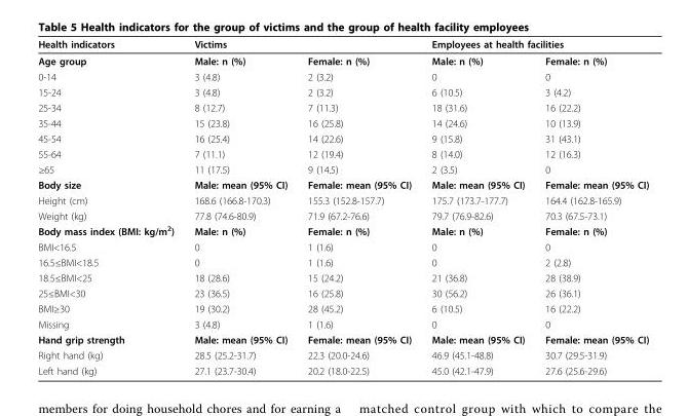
<table><thead><tr><td rowspan="2">Health indicators Age group</td><td colspan="2">Victims</td><td colspan="2">Employees at health facilities</td></tr><tr><td>Male: n (%)</td><td>Female: n (%)</td><td>Male: n (%)</td><td>Female: n (%)</td></tr></thead><tbody><tr><td>0-14</td><td>3 (4.8)</td><td>2 (3.2)</td><td>0</td><td>0</td></tr><tr><td>15-24</td><td>3 (4.8)</td><td>2 (3.2)</td><td>6 (10.5)</td><td>3 (4.2)</td></tr><tr><td>25-34</td><td>8 (12.7)</td><td>7 (11.3)</td><td>18 (31.6)</td><td>16 (22.2)</td></tr><tr><td>35-44</td><td>15 (23.8)</td><td>16 (25.8)</td><td>14 (24.6)</td><td>10 (13.9)</td></tr><tr><td>45-54</td><td>16 (25.4)</td><td>14 (22.6)</td><td>9 (15.8)</td><td>31 (43.1)</td></tr><tr><td>55-64</td><td>7 (11.1)</td><td>12 (19.4)</td><td>8 (14.0)</td><td>12 (16.3)</td></tr><tr><td>≥65</td><td>11 (17.5)</td><td>9 (14.5)</td><td>2 (3.5)</td><td>0</td></tr><tr><td>Body size</td><td>Male: mean (95% CI)</td><td>Female: mean (95% CI)</td><td>Male: mean (95% CI)</td><td>Female: mean (95% CI)</td></tr><tr><td>Height (cm)</td><td>168.6 (166.8-170.3)</td><td>155.3 (152.8-157.7)</td><td>175.7 (173.7-177.7)</td><td>164.4 (162.8-165.9)</td></tr><tr><td>Weight (kg)</td><td>77.8 (74.6-80.9)</td><td>71.9 (67.2-76.6)</td><td>79.7 (76.9-82.6)</td><td>70.3 (67.5-73.1)</td></tr><tr><td>Body mass index (BMI: kg/m<sup>2</sup>)</td><td>Male: n (%)</td><td>Female: n (%)</td><td>Male: n (%)</td><td>Female: n (%)</td></tr><tr><td>BMI&lt;16.5</td><td>0</td><td>1 (1.6)</td><td>0</td><td>0</td></tr><tr><td>16.5≤BMI&lt;18.5</td><td>0</td><td>1 (1.6)</td><td>0</td><td>2 (2.8)</td></tr><tr><td>18.5≤BMI&lt;25</td><td>18 (28.6)</td><td>15 (24.2)</td><td>21 (36.8)</td><td>28 (38.9)</td></tr><tr><td>25≤BMI&lt;30</td><td>23 (36.5)</td><td>16 (25.8)</td><td>30 (56.2)</td><td>26 (36.1)</td></tr><tr><td>BMI≥30</td><td>19 (30.2)</td><td>28 (45.2)</td><td>6 (10.5)</td><td>16 (22.2)</td></tr><tr><td>Missing</td><td>3 (4.8)</td><td>1 (1.6)</td><td>0</td><td>0</td></tr><tr><td>Hand grip strength</td><td>Male: mean (95% CI)</td><td>Female: mean (95% CI)</td><td>Male: mean (95% CI)</td><td>Female: mean (95% CI)</td></tr><tr><td>Right hand (kg)</td><td>28.5 (25.2-31.7)</td><td>22.3 (20.0-24.6)</td><td>46.9 (45.1-48.8)</td><td>30.7 (29.5-31.9)</td></tr><tr><td>Left hand (kg)</td><td>27.1 (23.7-30.4)</td><td>20.2 (18.0-22.5)</td><td>45.0 (42.1-47.9)</td><td>27.6 (25.6-29.6)</td></tr></tbody></table>